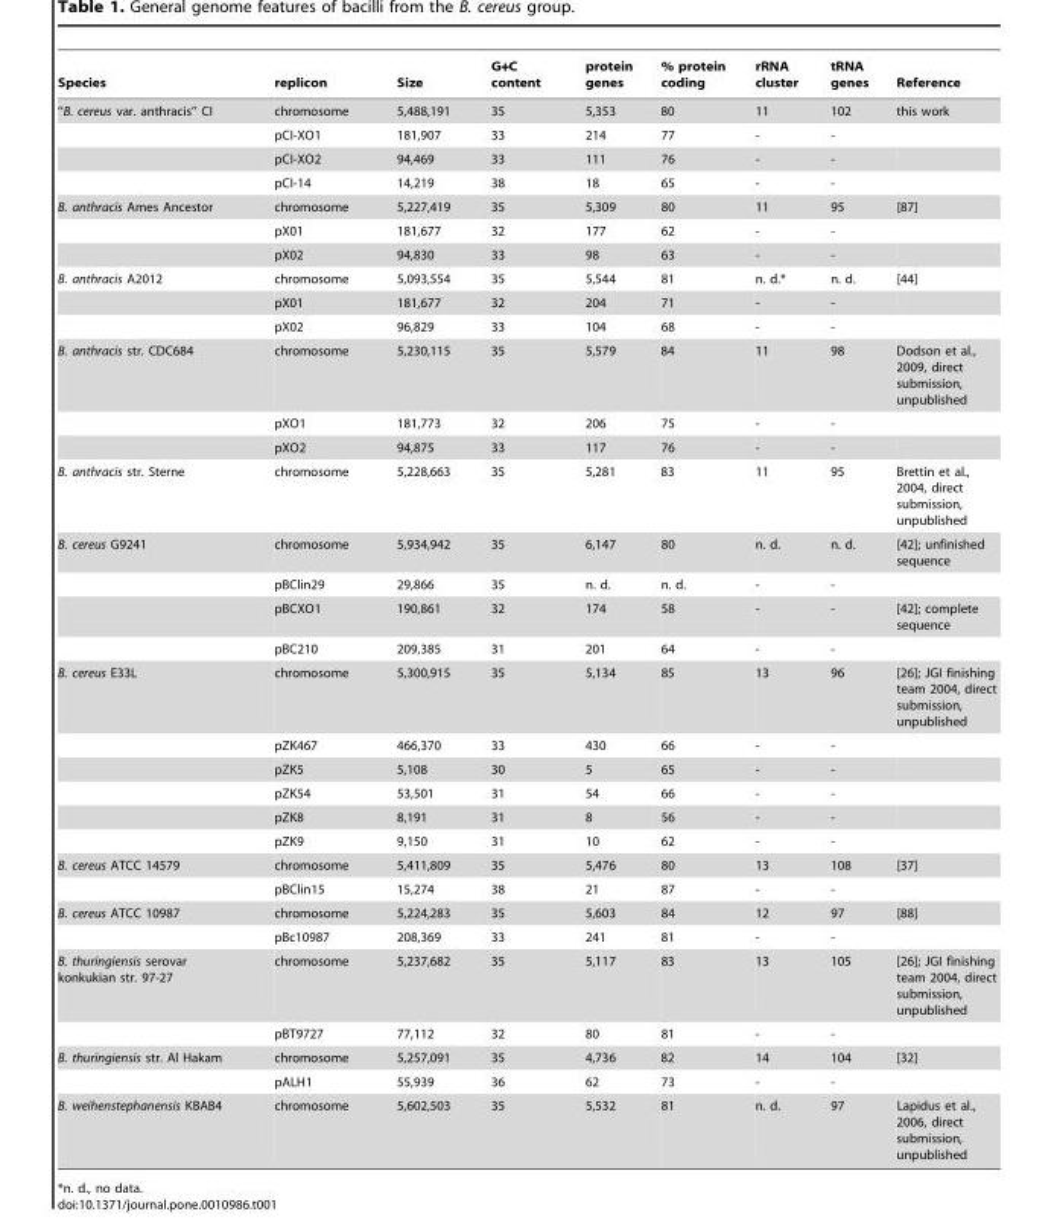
<table><thead><tr><td>Species</td><td>replicon</td><td>Size</td><td>G+C content</td><td>protein genes</td><td>% protein coding</td><td>rRNA cluster</td><td>tRNA genes</td><td>Reference</td></tr></thead><tbody><tr><td rowspan="4">‘‘B. cereus var. anthracis’’ CI</td><td>chromosome</td><td>5,488,191</td><td>35</td><td>5,353</td><td>80</td><td>11</td><td>102</td><td>this work</td></tr><tr><td>pCI-XO1</td><td>181,907</td><td>33</td><td>214</td><td>77</td><td>-</td><td>-</td><td></td></tr><tr><td>pCI-XO2</td><td>94,469</td><td>33</td><td>111</td><td>76</td><td>-</td><td>-</td><td></td></tr><tr><td>pCI-14</td><td>14,219</td><td>38</td><td>18</td><td>65</td><td>-</td><td>-</td><td></td></tr><tr><td rowspan="3">B. anthracis Ames Ancestor</td><td>chromosome</td><td>5,227,419</td><td>35</td><td>5,309</td><td>80</td><td>11</td><td>95</td><td>[87]</td></tr><tr><td>pX01</td><td>181,677</td><td>32</td><td>177</td><td>62</td><td>-</td><td>-</td><td></td></tr><tr><td>pX02</td><td>94,830</td><td>33</td><td>98</td><td>63</td><td>-</td><td>-</td><td></td></tr><tr><td rowspan="3">B. anthracis A2012</td><td>chromosome</td><td>5,093,554</td><td>35</td><td>5,544</td><td>81</td><td>n. d.*</td><td>n. d.</td><td>[44]</td></tr><tr><td>pX01</td><td>181,677</td><td>32</td><td>204</td><td>71</td><td>-</td><td>-</td><td></td></tr><tr><td>pX02</td><td>96,829</td><td>33</td><td>104</td><td>68</td><td>-</td><td>-</td><td></td></tr><tr><td rowspan="3">B. anthracis str. CDC684</td><td>chromosome</td><td>5,230,115</td><td>35</td><td>5,579</td><td>84</td><td>11</td><td>98</td><td>Dodson et al., 2009, direct submission, unpublished</td></tr><tr><td>pXO1</td><td>181,773</td><td>32</td><td>206</td><td>75</td><td>-</td><td>-</td><td></td></tr><tr><td>pXO2</td><td>94,875</td><td>33</td><td>117</td><td>76</td><td>-</td><td>-</td><td></td></tr><tr><td>B. anthracis str. Sterne</td><td>chromosome</td><td>5,228,663</td><td>35</td><td>5,281</td><td>83</td><td>11</td><td>95</td><td>Brettin et al., 2004, direct submission, unpublished</td></tr><tr><td rowspan="4">B. cereus G9241</td><td>chromosome</td><td>5,934,942</td><td>35</td><td>6,147</td><td>80</td><td>n. d.</td><td>n. d.</td><td>[42]; unfinished sequence</td></tr><tr><td>pBClin29</td><td>29,866</td><td>35</td><td>n. d.</td><td>n. d.</td><td>-</td><td>-</td><td></td></tr><tr><td>pBCXO1</td><td>190,861</td><td>32</td><td>174</td><td>58</td><td>-</td><td>-</td><td>[42]; complete sequence</td></tr><tr><td>pBC210</td><td>209,385</td><td>31</td><td>201</td><td>64</td><td>-</td><td>-</td><td></td></tr><tr><td rowspan="6">B. cereus E33L</td><td>chromosome</td><td>5,300,915</td><td>35</td><td>5,134</td><td>85</td><td>13</td><td>96</td><td>[26]; JGI finishing team 2004, direct submission, unpublished</td></tr><tr><td>pZK467</td><td>466,370</td><td>33</td><td>430</td><td>66</td><td>-</td><td>-</td><td></td></tr><tr><td>pZK5</td><td>5,108</td><td>30</td><td>5</td><td>65</td><td>-</td><td>-</td><td></td></tr><tr><td>pZK54</td><td>53,501</td><td>31</td><td>54</td><td>66</td><td>-</td><td>-</td><td></td></tr><tr><td>pZK8</td><td>8,191</td><td>31</td><td>8</td><td>56</td><td>-</td><td>-</td><td></td></tr><tr><td>pZK9</td><td>9,150</td><td>31</td><td>10</td><td>62</td><td>-</td><td>-</td><td></td></tr><tr><td rowspan="2">B. cereus ATCC 14579</td><td>chromosome</td><td>5,411,809</td><td>35</td><td>5,476</td><td>80</td><td>13</td><td>108</td><td>[37]</td></tr><tr><td>pBClin15</td><td>15,274</td><td>38</td><td>21</td><td>87</td><td>-</td><td>-</td><td></td></tr><tr><td rowspan="2">B. cereus ATCC 10987</td><td>chromosome</td><td>5,224,283</td><td>35</td><td>5,603</td><td>84</td><td>12</td><td>97</td><td>[88]</td></tr><tr><td>pBc10987</td><td>208,369</td><td>33</td><td>241</td><td>81</td><td>-</td><td>-</td><td></td></tr><tr><td rowspan="2">B. thuringiensis serovar konkukian str. 97-27</td><td>chromosome</td><td>5,237,682</td><td>35</td><td>5,117</td><td>83</td><td>13</td><td>105</td><td>[26]; JGI finishing team 2004, direct submission, unpublished</td></tr><tr><td>pBT9727</td><td>77,112</td><td>32</td><td>80</td><td>81</td><td>-</td><td>-</td><td></td></tr><tr><td rowspan="2">B. thuringiensis str. Al Hakam</td><td>chromosome</td><td>5,257,091</td><td>35</td><td>4,736</td><td>82</td><td>14</td><td>104</td><td>[32]</td></tr><tr><td>pALH1</td><td>55,939</td><td>36</td><td>62</td><td>73</td><td>-</td><td>-</td><td></td></tr><tr><td>B. weihenstephanensis KBAB4</td><td>chromosome</td><td>5,602,503</td><td>35</td><td>5,532</td><td>81</td><td>n. d.</td><td>97</td><td>Lapidus et al., 2006, direct submission, unpublished</td></tr></tbody></table>